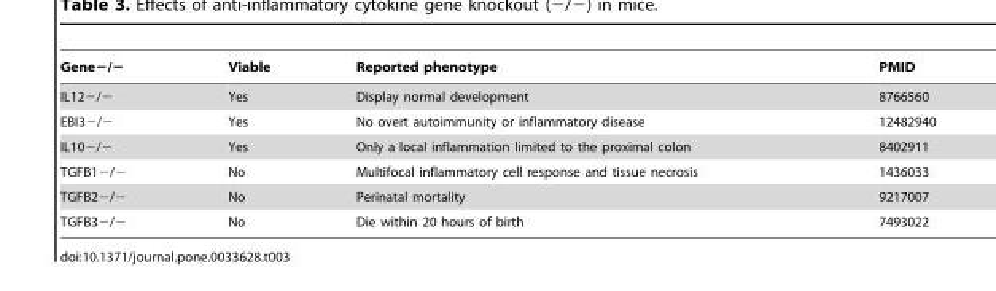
<table><thead><tr><td>Gene−/−</td><td>Viable</td><td>Reported phenotype</td><td>PMID</td></tr></thead><tbody><tr><td>IL12−/−</td><td>Yes</td><td>Display normal development</td><td>8766560</td></tr><tr><td>EBI3−/−</td><td>Yes</td><td>No overt autoimmunity or inflammatory disease</td><td>12482940</td></tr><tr><td>IL10−/−</td><td>Yes</td><td>Only a local inflammation limited to the proximal colon</td><td>8402911</td></tr><tr><td>TGFB1−/−</td><td>No</td><td>Multifocal inflammatory cell response and tissue necrosis</td><td>1436033</td></tr><tr><td>TGFB2−/−</td><td>No</td><td>Perinatal mortality</td><td>9217007</td></tr><tr><td>TGFB3−/−</td><td>No</td><td>Die within 20 hours of birth</td><td>7493022</td></tr></tbody></table>